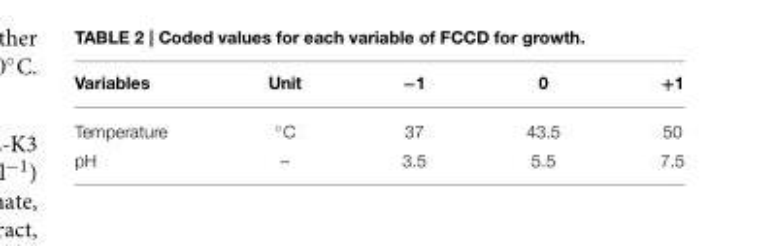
<table><thead><tr><td>Variables</td><td>Unit</td><td>−1</td><td>0</td><td>+1</td></tr></thead><tbody><tr><td>Temperature</td><td>◦C</td><td>37</td><td>43.5</td><td>50</td></tr><tr><td>pH</td><td>–</td><td>3.5</td><td>5.5</td><td>7.5</td></tr></tbody></table>